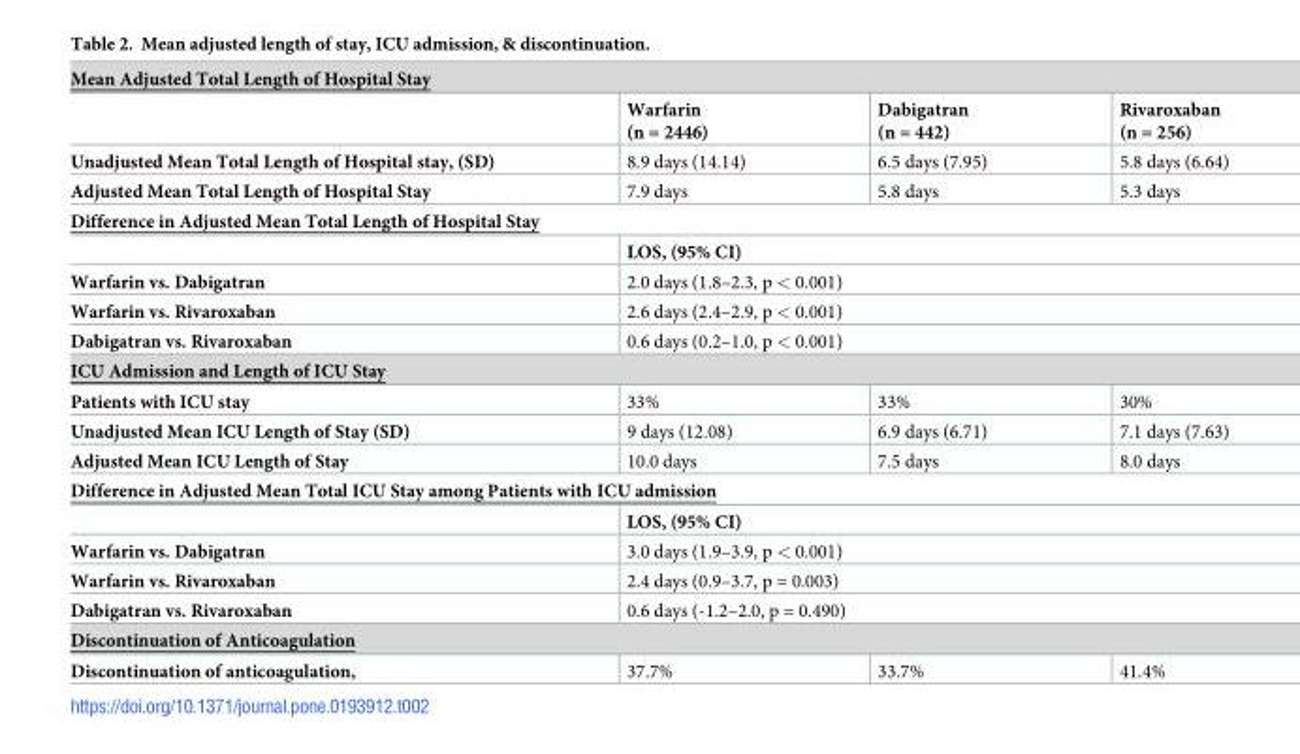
<table><tbody><tr><td colspan="4">Mean Adjusted Total Length of Hospital Stay</td></tr><tr><td></td><td>Warfarin (n = 2446)</td><td>Dabigatran (n = 442)</td><td>Rivaroxaban (n = 256)</td></tr><tr><td>Unadjusted Mean Total Length of Hospital stay, (SD)</td><td>8.9 days (14.14)</td><td>6.5 days (7.95)</td><td>5.8 days (6.64)</td></tr><tr><td>Adjusted Mean Total Length of Hospital Stay</td><td>7.9 days</td><td>5.8 days</td><td>5.3 days</td></tr><tr><td colspan="4">Difference in Adjusted Mean Total Length of Hospital Stay</td></tr><tr><td></td><td colspan="3">LOS, (95% CI)</td></tr><tr><td>Warfarin vs. Dabigatran</td><td colspan="3">2.0 days (1.8–2.3, p &lt; 0.001)</td></tr><tr><td>Warfarin vs. Rivaroxaban</td><td colspan="3">2.6 days (2.4–2.9, p &lt; 0.001)</td></tr><tr><td>Dabigatran vs. Rivaroxaban</td><td colspan="3">0.6 days (0.2–1.0, p &lt; 0.001)</td></tr><tr><td colspan="4">ICU Admission and Length of ICU Stay</td></tr><tr><td>Patients with ICU stay</td><td>33%</td><td>33%</td><td>30%</td></tr><tr><td>Unadjusted Mean ICU Length of Stay (SD)</td><td>9 days (12.08)</td><td>6.9 days (6.71)</td><td>7.1 days (7.63)</td></tr><tr><td>Adjusted Mean ICU Length of Stay</td><td>10.0 days</td><td>7.5 days</td><td>8.0 days</td></tr><tr><td colspan="4">Difference in Adjusted Mean Total ICU Stay among Patients with ICU admission</td></tr><tr><td></td><td colspan="3">LOS, (95% CI)</td></tr><tr><td>Warfarin vs. Dabigatran</td><td colspan="3">3.0 days (1.9–3.9, p &lt; 0.001)</td></tr><tr><td>Warfarin vs. Rivaroxaban</td><td colspan="3">2.4 days (0.9–3.7, p = 0.003)</td></tr><tr><td>Dabigatran vs. Rivaroxaban</td><td colspan="3">0.6 days (-1.2–2.0, p = 0.490)</td></tr><tr><td colspan="4">Discontinuation of Anticoagulation</td></tr><tr><td>Discontinuation of anticoagulation,</td><td>37.7%</td><td>33.7%</td><td>41.4%</td></tr></tbody></table>